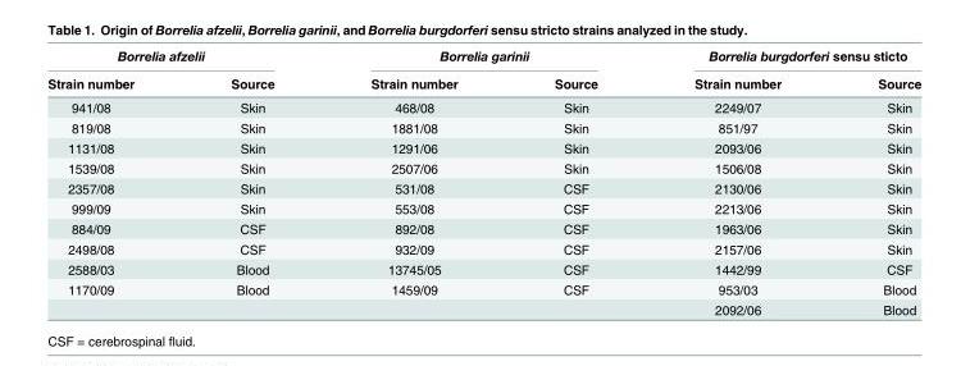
<table><thead><tr><td colspan="2">Borrelia afzelii</td><td colspan="2">Borrelia garinii</td><td colspan="2">Borrelia burgdorferi sensu sticto</td></tr><tr><td>Strain number</td><td>Source</td><td>Strain number</td><td>Source</td><td>Strain number</td><td>Source</td></tr></thead><tbody><tr><td>941/08</td><td>Skin</td><td>468/08</td><td>Skin</td><td>2249/07</td><td>Skin</td></tr><tr><td>819/08</td><td>Skin</td><td>1881/08</td><td>Skin</td><td>851/97</td><td>Skin</td></tr><tr><td>1131/08</td><td>Skin</td><td>1291/06</td><td>Skin</td><td>2093/06</td><td>Skin</td></tr><tr><td>1539/08</td><td>Skin</td><td>2507/06</td><td>Skin</td><td>1506/08</td><td>Skin</td></tr><tr><td>2357/08</td><td>Skin</td><td>531/08</td><td>CSF</td><td>2130/06</td><td>Skin</td></tr><tr><td>999/09</td><td>Skin</td><td>553/08</td><td>CSF</td><td>2213/06</td><td>Skin</td></tr><tr><td>884/09</td><td>CSF</td><td>892/08</td><td>CSF</td><td>1963/06</td><td>Skin</td></tr><tr><td>2498/08</td><td>CSF</td><td>932/09</td><td>CSF</td><td>2157/06</td><td>Skin</td></tr><tr><td>2588/03</td><td>Blood</td><td>13745/05</td><td>CSF</td><td>1442/99</td><td>CSF</td></tr><tr><td rowspan="2">1170/09</td><td>Blood</td><td>1459/09</td><td>CSF</td><td>953/03</td><td>Blood</td></tr><tr><td></td><td></td><td></td><td>2092/06</td><td>Blood</td></tr></tbody></table>